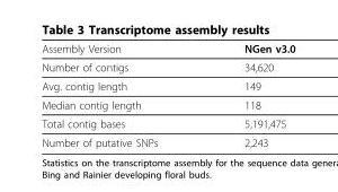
<table><thead><tr><td>Assembly Version</td><td>NGen v3.0</td></tr></thead><tbody><tr><td>Number of contigs</td><td>34,620</td></tr><tr><td>Avg. contig length</td><td>149</td></tr><tr><td>Median contig length</td><td>118</td></tr><tr><td>Total contig bases</td><td>5,191,475</td></tr><tr><td>Number of putative SNPs</td><td>2,243</td></tr></tbody></table>